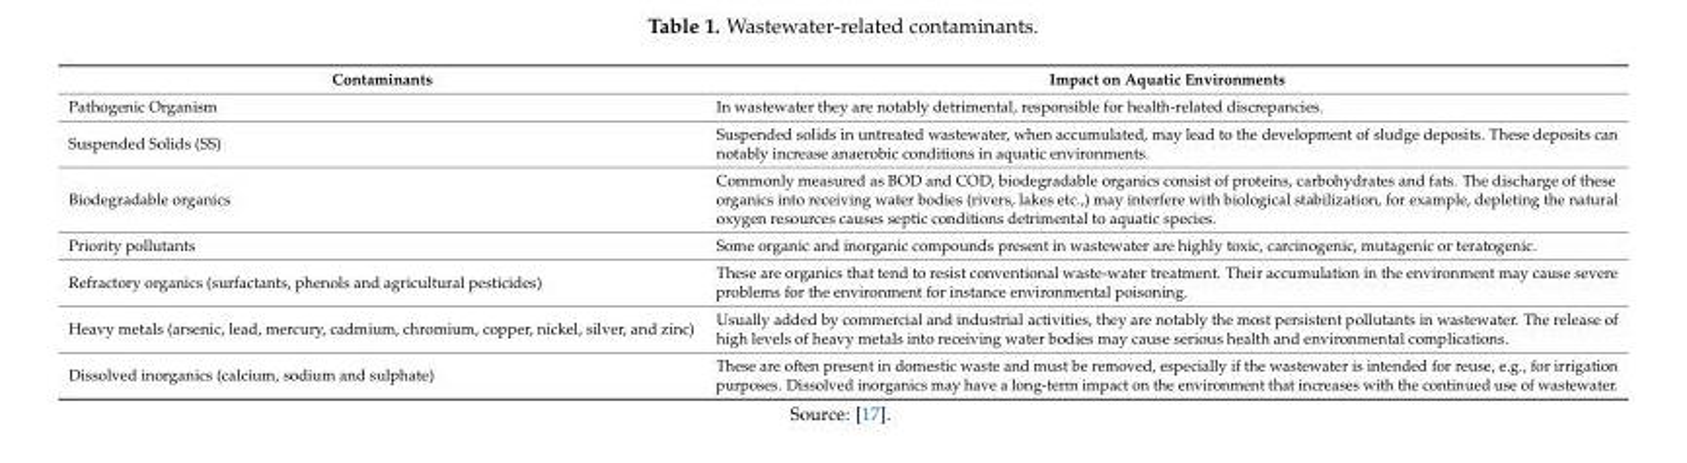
<table><thead><tr><td>Contaminants</td><td>Impact on Aquatic Environments</td></tr></thead><tbody><tr><td>Pathogenic Organism</td><td>In wastewater they are notably detrimental, responsible for health-related discrepancies.</td></tr><tr><td>Suspended Solids (SS)</td><td>Suspended solids in untreated wastewater, when accumulated, may lead to the development of sludge deposits. These deposits can notably increase anaerobic conditions in aquatic environments.</td></tr><tr><td>Biodegradable organics</td><td>Commonly measured as BOD and COD, biodegradable organics consist of proteins, carbohydrates and fats. The discharge of these organics into receiving water bodies (rivers, lakes etc.,) may interfere with biological stabilization, for example, depleting the natural oxygen resources causes septic conditions detrimental to aquatic species.</td></tr><tr><td>Priority pollutants</td><td>Some organic and inorganic compounds present in wastewater are highly toxic, carcinogenic, mutagenic or teratogenic.</td></tr><tr><td>Refractory organics (surfactants, phenols and agricultural pesticides)</td><td>These are organics that tend to resist conventional waste-water treatment. Their accumulation in the environment may cause severe problems for the environment for instance environmental poisoning.</td></tr><tr><td>Heavy metals (arsenic, lead, mercury, cadmium, chromium, copper, nickel, silver, and zinc)</td><td>Usually added by commercial and industrial activities, they are notably the most persistent pollutants in wastewater. The release of high levels of heavy metals into receiving water bodies may cause serious health and environmental complications.</td></tr><tr><td>Dissolved inorganics (calcium, sodium and sulphate)</td><td>These are often present in domestic waste and must be removed, especially if the wastewater is intended for reuse, e.g., for irrigation purposes. Dissolved inorganics may have a long-term impact on the environment that increases with the continued use of wastewater.</td></tr></tbody></table>